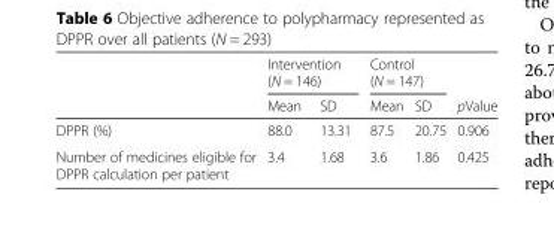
<table><thead><tr><td rowspan="2"></td><td colspan="2">Intervention (N = 146)</td><td colspan="2">Control (N = 147)</td><td rowspan="2">pValue</td></tr><tr><td>Mean</td><td>SD</td><td>Mean</td><td>SD</td></tr></thead><tbody><tr><td>DPPR (%)</td><td>88.0</td><td>13.31</td><td>87.5</td><td>20.75</td><td>0.906</td></tr><tr><td>Number of medicines eligible for DPPR calculation per patient</td><td>3.4</td><td>1.68</td><td>3.6</td><td>1.86</td><td>0.425</td></tr></tbody></table>